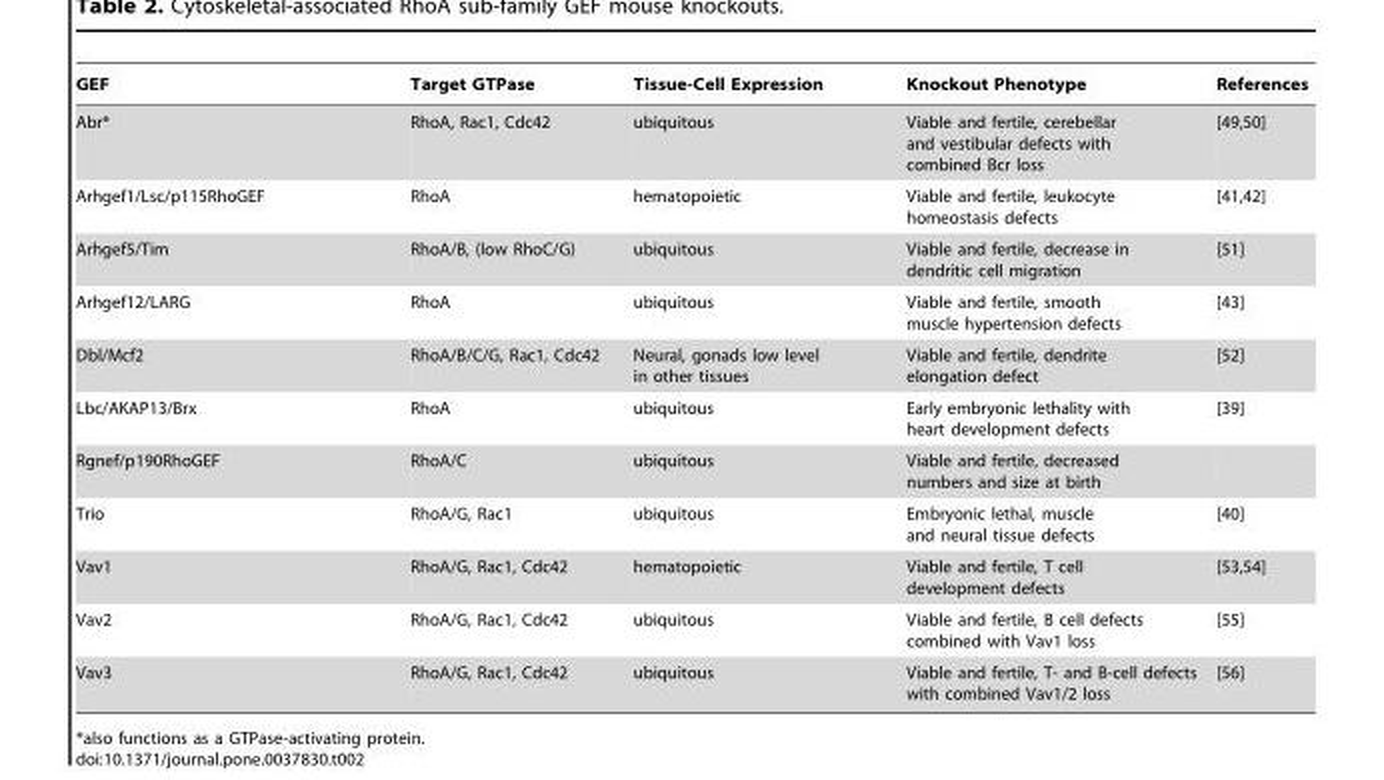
<table><thead><tr><td>GEF</td><td>Target GTPase</td><td>Tissue-Cell Expression</td><td>Knockout Phenotype</td><td>References</td></tr></thead><tbody><tr><td>Abr*</td><td>RhoA, Rac1, Cdc42</td><td>ubiquitous</td><td>Viable and fertile, cerebellar and vestibular defects with combined Bcr loss</td><td>[49,50]</td></tr><tr><td>Arhgef1/Lsc/p115RhoGEF</td><td>RhoA</td><td>hematopoietic</td><td>Viable and fertile, leukocyte homeostasis defects</td><td>[41,42]</td></tr><tr><td>Arhgef5/Tim</td><td>RhoA/B, (low RhoC/G)</td><td>ubiquitous</td><td>Viable and fertile, decrease in dendritic cell migration</td><td>[51]</td></tr><tr><td>Arhgef12/LARG</td><td>RhoA</td><td>ubiquitous</td><td>Viable and fertile, smooth muscle hypertension defects</td><td>[43]</td></tr><tr><td>Dbl/Mcf2</td><td>RhoA/B/C/G, Rac1, Cdc42</td><td>Neural, gonads low level in other tissues</td><td>Viable and fertile, dendrite elongation defect</td><td>[52]</td></tr><tr><td>Lbc/AKAP13/Brx</td><td>RhoA</td><td>ubiquitous</td><td>Early embryonic lethality with heart development defects</td><td>[39]</td></tr><tr><td>Rgnef/p190RhoGEF</td><td>RhoA/C</td><td>ubiquitous</td><td>Viable and fertile, decreased numbers and size at birth</td><td></td></tr><tr><td>Trio</td><td>RhoA/G, Rac1</td><td>ubiquitous</td><td>Embryonic lethal, muscle and neural tissue defects</td><td>[40]</td></tr><tr><td>Vav1</td><td>RhoA/G, Rac1, Cdc42</td><td>hematopoietic</td><td>Viable and fertile, T cell development defects</td><td>[53,54]</td></tr><tr><td>Vav2</td><td>RhoA/G, Rac1, Cdc42</td><td>ubiquitous</td><td>Viable and fertile, B cell defects combined with Vav1 loss</td><td>[55]</td></tr><tr><td>Vav3</td><td>RhoA/G, Rac1, Cdc42</td><td>ubiquitous</td><td>Viable and fertile, T- and B-cell defects with combined Vav1/2 loss</td><td>[56]</td></tr></tbody></table>